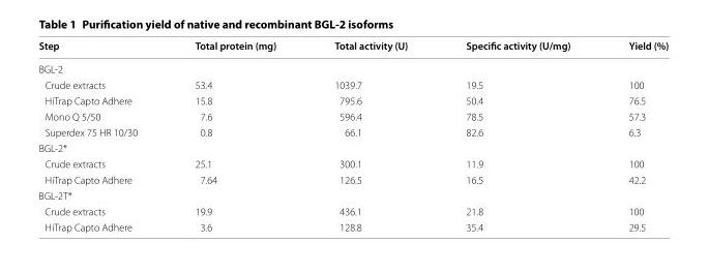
<table><thead><tr><td>Step</td><td>Total protein (mg)</td><td>Total activity (U)</td><td>Specific activity (U/mg)</td><td>Yield (%)</td></tr></thead><tbody><tr><td colspan="5">BGL‑2</td></tr><tr><td>Crude extracts</td><td>53.4</td><td>1039.7</td><td>19.5</td><td>100</td></tr><tr><td>HiTrap Capto Adhere</td><td>15.8</td><td>795.6</td><td>50.4</td><td>76.5</td></tr><tr><td>Mono Q 5/50</td><td>7.6</td><td>596.4</td><td>78.5</td><td>57.3</td></tr><tr><td>Superdex 75 HR 10/30</td><td>0.8</td><td>66.1</td><td>82.6</td><td>6.3</td></tr><tr><td colspan="5">BGL‑2*</td></tr><tr><td>Crude extracts</td><td>25.1</td><td>300.1</td><td>11.9</td><td>100</td></tr><tr><td>HiTrap Capto Adhere</td><td>7.64</td><td>126.5</td><td>16.5</td><td>42.2</td></tr><tr><td colspan="5">BGL‑2T*</td></tr><tr><td>Crude extracts</td><td>19.9</td><td>436.1</td><td>21.8</td><td>100</td></tr><tr><td>HiTrap Capto Adhere</td><td>3.6</td><td>128.8</td><td>35.4</td><td>29.5</td></tr></tbody></table>